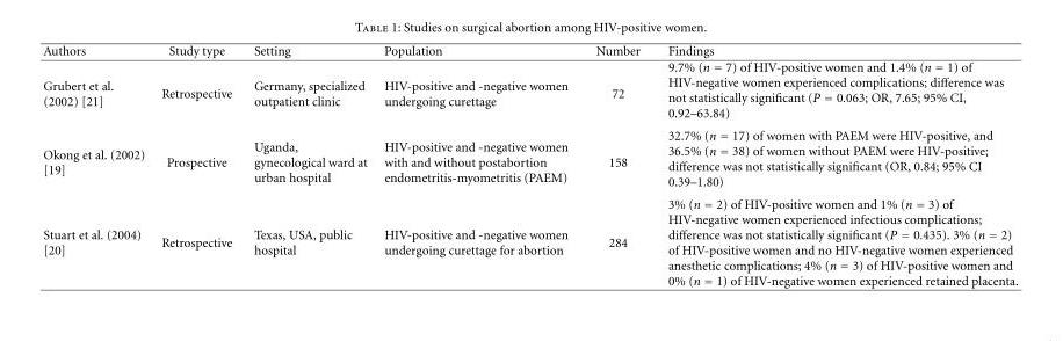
<table><thead><tr><td>Authors</td><td>Study type</td><td>Setting</td><td>Population</td><td>Number</td><td>Findings</td></tr></thead><tbody><tr><td>Grubert et al. (2002) [21]</td><td>Retrospective</td><td>Germany, specialized outpatient clinic</td><td>HIV-positive and -negative women undergoing curettage</td><td>72</td><td>9.7% (n = 7) of HIV-positive women and 1.4% (n = 1) of HIV-negative women experienced complications; difference was not statistically significant (P = 0.063; OR, 7.65; 95% CI, 0.92–63.84)</td></tr><tr><td>Okong et al. (2002) [19]</td><td>Prospective</td><td>Uganda, gynecological ward at urban hospital</td><td>HIV-positive and -negative women with and without postabortion endometritis-myometritis (PAEM)</td><td>158</td><td>32.7% (n = 17) of women with PAEM were HIV-positive, and 36.5% (n = 38) of women without PAEM were HIV-positive; difference was not statistically significant (OR, 0.84; 95% CI 0.39–1.80)</td></tr><tr><td>Stuart et al. (2004) [20]</td><td>Retrospective</td><td>Texas, USA, public hospital</td><td>HIV-positive and -negative women undergoing curettage for abortion</td><td>284</td><td>3% (n = 2) of HIV-positive women and 1% (n = 3) of HIV-negative women experienced infectious complications; difference was not statistically significant (P = 0.435). 3% (n = 2) of HIV-positive women and no HIV-negative women experienced anesthetic complications; 4% (n = 3) of HIV-positive women and 0% (n = 1) of HIV-negative women experienced retained placenta.</td></tr></tbody></table>